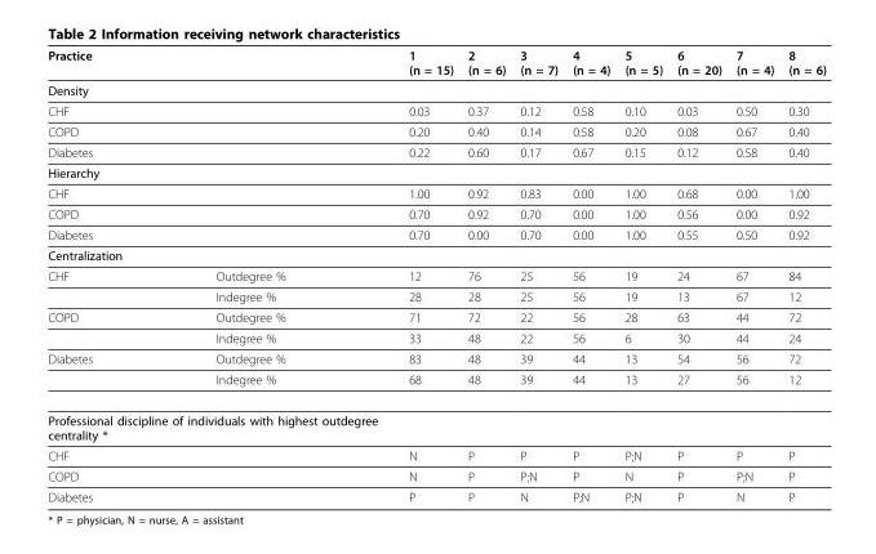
<table><thead><tr><td colspan="2">Practice</td><td>1 (n = 15)</td><td>2 (n = 6)</td><td>3 (n = 7)</td><td>4 (n = 4)</td><td>5 (n = 5)</td><td>6 (n = 20)</td><td>7 (n = 4)</td><td>8 (n = 6)</td></tr></thead><tbody><tr><td colspan="10">Density</td></tr><tr><td colspan="2">CHF</td><td>0.03</td><td>0.37</td><td>0.12</td><td>0.58</td><td>0.10</td><td>0.03</td><td>0.50</td><td>0.30</td></tr><tr><td colspan="2">COPD</td><td>0.20</td><td>0.40</td><td>0.14</td><td>0.58</td><td>0.20</td><td>0.08</td><td>0.67</td><td>0.40</td></tr><tr><td colspan="2">Diabetes</td><td>0.22</td><td>0.60</td><td>0.17</td><td>0.67</td><td>0.15</td><td>0.12</td><td>0.58</td><td>0.40</td></tr><tr><td colspan="10">Hierarchy</td></tr><tr><td colspan="2">CHF</td><td>1.00</td><td>0.92</td><td>0.83</td><td>0.00</td><td>1.00</td><td>0.68</td><td>0.00</td><td>1.00</td></tr><tr><td colspan="2">COPD</td><td>0.70</td><td>0.92</td><td>0.70</td><td>0.00</td><td>1.00</td><td>0.56</td><td>0.00</td><td>0.92</td></tr><tr><td colspan="2">Diabetes</td><td>0.70</td><td>0.00</td><td>0.70</td><td>0.00</td><td>1.00</td><td>0.55</td><td>0.50</td><td>0.92</td></tr><tr><td colspan="10">Centralization</td></tr><tr><td rowspan="2">CHF</td><td>Outdegree %</td><td>12</td><td>76</td><td>25</td><td>56</td><td>19</td><td>24</td><td>67</td><td>84</td></tr><tr><td>Indegree %</td><td>28</td><td>28</td><td>25</td><td>56</td><td>19</td><td>13</td><td>67</td><td>12</td></tr><tr><td rowspan="2">COPD</td><td>Outdegree %</td><td>71</td><td>72</td><td>22</td><td>56</td><td>28</td><td>63</td><td>44</td><td>72</td></tr><tr><td>Indegree %</td><td>33</td><td>48</td><td>22</td><td>56</td><td>6</td><td>30</td><td>44</td><td>24</td></tr><tr><td rowspan="2">Diabetes</td><td>Outdegree %</td><td>83</td><td>48</td><td>39</td><td>44</td><td>13</td><td>54</td><td>56</td><td>72</td></tr><tr><td>Indegree %</td><td>68</td><td>48</td><td>39</td><td>44</td><td>13</td><td>27</td><td>56</td><td>12</td></tr><tr><td colspan="10">Professional discipline of individuals with highest outdegree centrality *</td></tr><tr><td colspan="2">CHF</td><td>N</td><td>P</td><td>P</td><td>P</td><td>P;N</td><td>P</td><td>P</td><td>P</td></tr><tr><td colspan="2">COPD</td><td>N</td><td>P</td><td>P;N</td><td>P</td><td>N</td><td>P</td><td>P;N</td><td>P</td></tr><tr><td colspan="2">Diabetes</td><td>P</td><td>P</td><td>N</td><td>P;N</td><td>P;N</td><td>P</td><td>N</td><td>P</td></tr></tbody></table>